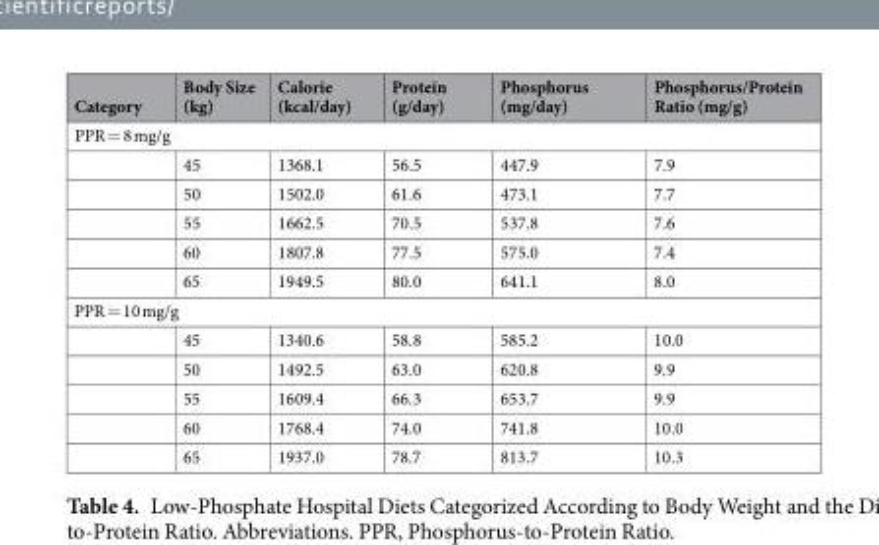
<table><thead><tr><td>Category</td><td>Body Size (kg)</td><td>Calorie (kcal/day)</td><td>Protein (g/day)</td><td>Phosphorus (mg/day)</td><td>Phosphorus/Protein Ratio (mg/g)</td></tr></thead><tbody><tr><td colspan="6">PPR = 8 mg/g</td></tr><tr><td></td><td>45</td><td>1368.1</td><td>56.5</td><td>447.9</td><td>7.9</td></tr><tr><td></td><td>50</td><td>1502.0</td><td>61.6</td><td>473.1</td><td>7.7</td></tr><tr><td></td><td>55</td><td>1662.5</td><td>70.5</td><td>537.8</td><td>7.6</td></tr><tr><td></td><td>60</td><td>1807.8</td><td>77.5</td><td>575.0</td><td>7.4</td></tr><tr><td></td><td>65</td><td>1949.5</td><td>80.0</td><td>641.1</td><td>8.0</td></tr><tr><td colspan="6">PPR = 10 mg/g</td></tr><tr><td></td><td>45</td><td>1340.6</td><td>58.8</td><td>585.2</td><td>10.0</td></tr><tr><td></td><td>50</td><td>1492.5</td><td>63.0</td><td>620.8</td><td>9.9</td></tr><tr><td></td><td>55</td><td>1609.4</td><td>66.3</td><td>653.7</td><td>9.9</td></tr><tr><td></td><td>60</td><td>1768.4</td><td>74.0</td><td>741.8</td><td>10.0</td></tr><tr><td></td><td>65</td><td>1937.0</td><td>78.7</td><td>813.7</td><td>10.3</td></tr></tbody></table>